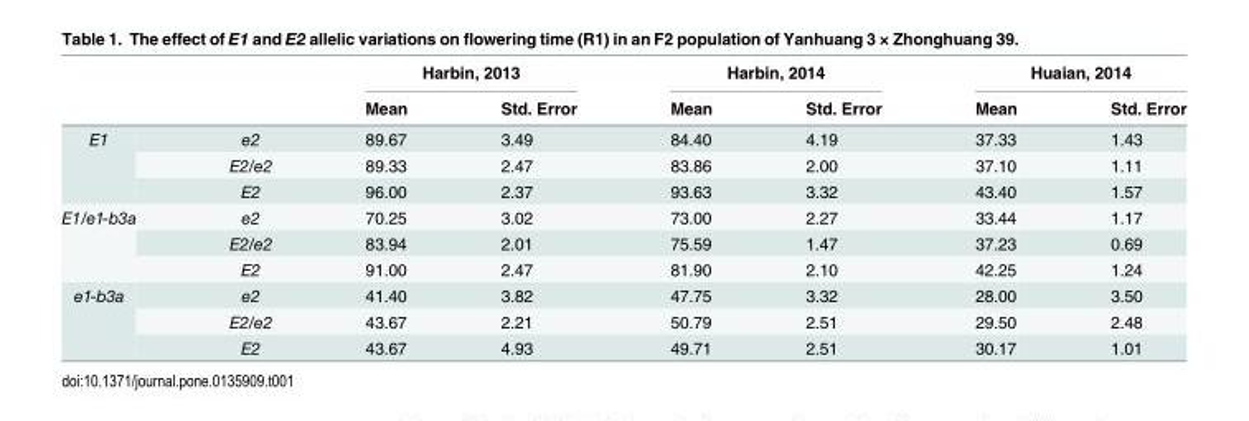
<table><thead><tr><td rowspan="2"></td><td rowspan="2"></td><td colspan="2">Harbin, 2013</td><td colspan="2">Harbin, 2014</td><td colspan="2">Huaian, 2014</td></tr><tr><td>Mean</td><td>Std. Error</td><td>Mean</td><td>Std. Error</td><td>Mean</td><td>Std. Error</td></tr></thead><tbody><tr><td rowspan="3">E1</td><td>e2</td><td>89.67</td><td>3.49</td><td>84.40</td><td>4.19</td><td>37.33</td><td>1.43</td></tr><tr><td>E2/e2</td><td>89.33</td><td>2.47</td><td>83.86</td><td>2.00</td><td>37.10</td><td>1.11</td></tr><tr><td>E2</td><td>96.00</td><td>2.37</td><td>93.63</td><td>3.32</td><td>43.40</td><td>1.57</td></tr><tr><td rowspan="3">E1/e1-b3a</td><td>e2</td><td>70.25</td><td>3.02</td><td>73.00</td><td>2.27</td><td>33.44</td><td>1.17</td></tr><tr><td>E2/e2</td><td>83.94</td><td>2.01</td><td>75.59</td><td>1.47</td><td>37.23</td><td>0.69</td></tr><tr><td>E2</td><td>91.00</td><td>2.47</td><td>81.90</td><td>2.10</td><td>42.25</td><td>1.24</td></tr><tr><td rowspan="3">e1-b3a</td><td>e2</td><td>41.40</td><td>3.82</td><td>47.75</td><td>3.32</td><td>28.00</td><td>3.50</td></tr><tr><td>E2/e2</td><td>43.67</td><td>2.21</td><td>50.79</td><td>2.51</td><td>29.50</td><td>2.48</td></tr><tr><td>E2</td><td>43.67</td><td>4.93</td><td>49.71</td><td>2.51</td><td>30.17</td><td>1.01</td></tr></tbody></table>